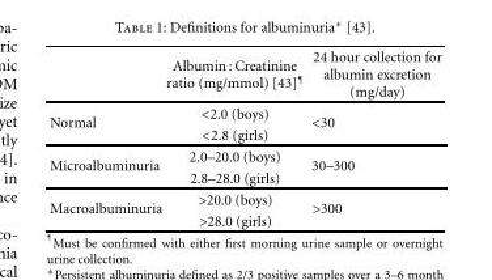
<table><thead><tr><td></td><td>Albumin : Creatinine ratio (mg/mmol) [43]<sup>¶</sup></td><td>24 hour collection for albumin excretion (mg/day)</td></tr></thead><tbody><tr><td rowspan="2">Normal</td><td>&lt;2.0 (boys)</td><td rowspan="2">&lt;30</td></tr><tr><td>&lt;2.8 (girls)</td></tr><tr><td rowspan="2">Microalbuminuria</td><td>2.0–20.0 (boys)</td><td rowspan="2">30–300</td></tr><tr><td>2.8–28.0 (girls)</td></tr><tr><td rowspan="2">Macroalbuminuria</td><td>&gt;20.0 (boys)</td><td rowspan="2">&gt;300</td></tr><tr><td>&gt;28.0 (girls)</td></tr></tbody></table>